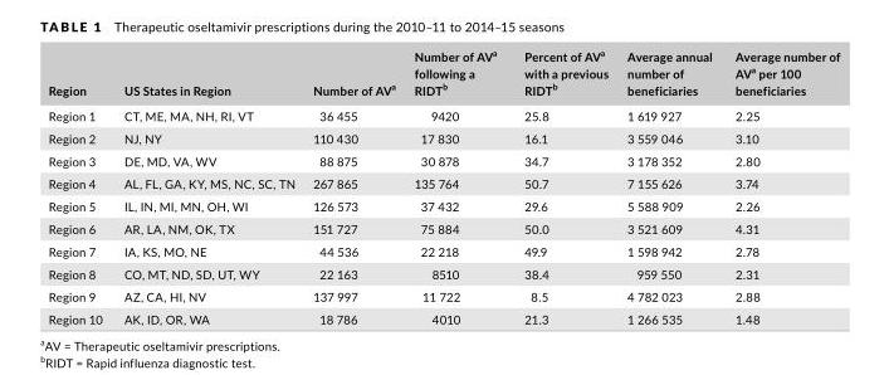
<table><thead><tr><td>Region</td><td>US States in Region</td><td>Number of AV<sup>a</sup></td><td>Number of AV<sup>a</sup> following a RIDT<sup>b</sup></td><td>Percent of AV<sup>a</sup> with a previous RIDT<sup>b</sup></td><td>Average annual number of beneficiaries</td><td>Average number of AV<sup>a</sup> per 100 beneficiaries</td></tr></thead><tbody><tr><td>Region 1</td><td>CT, ME, MA, NH, RI, VT</td><td>36 455</td><td>9420</td><td>25.8</td><td>1 619 927</td><td>2.25</td></tr><tr><td>Region 2</td><td>NJ, NY</td><td>110 430</td><td>17 830</td><td>16.1</td><td>3 559 046</td><td>3.10</td></tr><tr><td>Region 3</td><td>DE, MD, VA, WV</td><td>88 875</td><td>30 878</td><td>34.7</td><td>3 178 352</td><td>2.80</td></tr><tr><td>Region 4</td><td>AL, FL, GA, KY, MS, NC, SC, TN</td><td>267 865</td><td>135 764</td><td>50.7</td><td>7 155 626</td><td>3.74</td></tr><tr><td>Region 5</td><td>IL, IN, MI, MN, OH, WI</td><td>126 573</td><td>37 432</td><td>29.6</td><td>5 588 909</td><td>2.26</td></tr><tr><td>Region 6</td><td>AR, LA, NM, OK, TX</td><td>151 727</td><td>75 884</td><td>50.0</td><td>3 521 609</td><td>4.31</td></tr><tr><td>Region 7</td><td>IA, KS, MO, NE</td><td>44 536</td><td>22 218</td><td>49.9</td><td>1 598 942</td><td>2.78</td></tr><tr><td>Region 8</td><td>CO, MT, ND, SD, UT, WY</td><td>22 163</td><td>8510</td><td>38.4</td><td>959 550</td><td>2.31</td></tr><tr><td>Region 9</td><td>AZ, CA, HI, NV</td><td>137 997</td><td>11 722</td><td>8.5</td><td>4 782 023</td><td>2.88</td></tr><tr><td>Region 10</td><td>AK, ID, OR, WA</td><td>18 786</td><td>4010</td><td>21.3</td><td>1 266 535</td><td>1.48</td></tr></tbody></table>